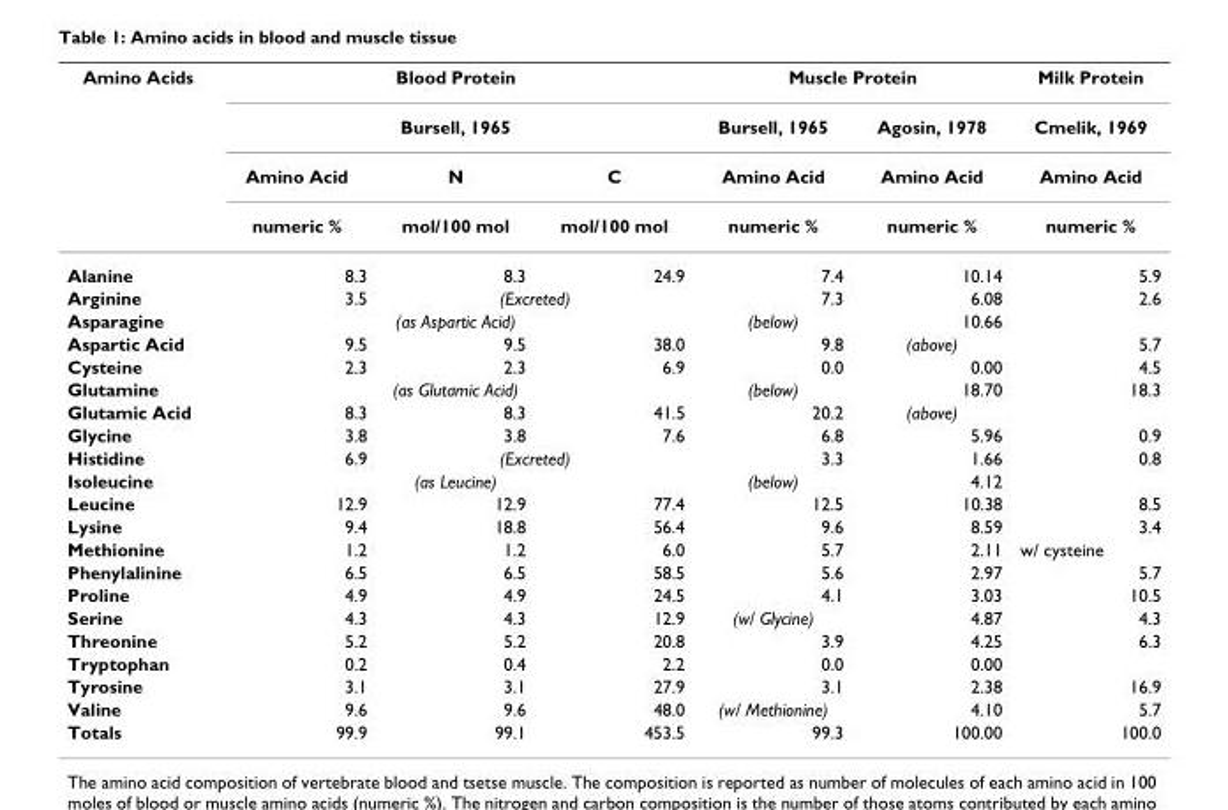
<table><thead><tr><td rowspan="4">Amino Acids</td><td rowspan="2" colspan="3">Blood Protein Bursell, 1965</td><td colspan="2">Muscle Protein</td><td rowspan="4">Milk Protein Cmelik, 1969 Amino Acid numeric %</td></tr><tr><td rowspan="3">Bursell, 1965 Amino Acid numeric %</td><td rowspan="3">Agosin, 1978 Amino Acid numeric %</td></tr><tr><td rowspan="2">Amino Acid numeric %</td><td rowspan="2">N mol/100 mol</td><td rowspan="2">C mol/100 mol</td></tr><tr></tr></thead><tbody><tr><td>Alanine</td><td>8.3</td><td>8.3</td><td>24.9</td><td>7.4</td><td>10.14</td><td>5.9</td></tr><tr><td>Arginine</td><td>3.5</td><td colspan="2">(Excreted)</td><td>7.3</td><td>6.08</td><td>2.6</td></tr><tr><td>Asparagine</td><td colspan="3">(as Aspartic Acid)</td><td>(below)</td><td>10.66</td><td></td></tr><tr><td>Aspartic Acid</td><td>9.5</td><td>9.5</td><td>38.0</td><td>9.8</td><td>(above)</td><td>5.7</td></tr><tr><td>Cysteine</td><td>2.3</td><td>2.3</td><td>6.9</td><td>0.0</td><td>0.00</td><td>4.5</td></tr><tr><td>Glutamine</td><td colspan="3">(as Glutamic Acid)</td><td>(below)</td><td>18.70</td><td>18.3</td></tr><tr><td>Glutamic Acid</td><td>8.3</td><td>8.3</td><td>41.5</td><td>20.2</td><td>(above)</td><td></td></tr><tr><td>Glycine</td><td>3.8</td><td>3.8</td><td>7.6</td><td>6.8</td><td>5.96</td><td>0.9</td></tr><tr><td>Histidine</td><td>6.9</td><td colspan="2">(Excreted)</td><td>3.3</td><td>1.66</td><td>0.8</td></tr><tr><td>Isoleucine</td><td colspan="3">(as Leucine)</td><td>(below)</td><td>4.12</td><td></td></tr><tr><td>Leucine</td><td>12.9</td><td>12.9</td><td>77.4</td><td>12.5</td><td>10.38</td><td>8.5</td></tr><tr><td>Lysine</td><td>9.4</td><td>18.8</td><td>56.4</td><td>9.6</td><td>8.59</td><td>3.4</td></tr><tr><td>Methionine</td><td>1.2</td><td>1.2</td><td>6.0</td><td>5.7</td><td>2.11</td><td>w/ cysteine</td></tr><tr><td>Phenylalinine</td><td>6.5</td><td>6.5</td><td>58.5</td><td>5.6</td><td>2.97</td><td>5.7</td></tr><tr><td>Proline</td><td>4.9</td><td>4.9</td><td>24.5</td><td>4.1</td><td>3.03</td><td>10.5</td></tr><tr><td>Serine</td><td>4.3</td><td>4.3</td><td>12.9</td><td>(w/ Glycine)</td><td>4.87</td><td>4.3</td></tr><tr><td>Threonine</td><td>5.2</td><td>5.2</td><td>20.8</td><td>3.9</td><td>4.25</td><td>6.3</td></tr><tr><td>Tryptophan</td><td>0.2</td><td>0.4</td><td>2.2</td><td>0.0</td><td>0.00</td><td></td></tr><tr><td>Tyrosine</td><td>3.1</td><td>3.1</td><td>27.9</td><td>3.1</td><td>2.38</td><td>16.9</td></tr><tr><td>Valine</td><td>9.6</td><td>9.6</td><td>48.0</td><td>(w/ Methionine)</td><td>4.10</td><td>5.7</td></tr><tr><td>Totals</td><td>99.9</td><td>99.1</td><td>453.5</td><td>99.3</td><td>100.00</td><td>100.0</td></tr></tbody></table>